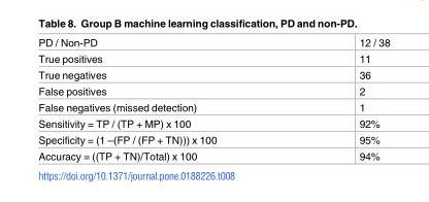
<table><tbody><tr><td>PD / Non-PD</td><td>12 / 38</td></tr><tr><td>True positives</td><td>11</td></tr><tr><td>True negatives</td><td>36</td></tr><tr><td>False positives</td><td>2</td></tr><tr><td>False negatives (missed detection)</td><td>1</td></tr><tr><td>Sensitivity = TP / (TP + MP) x 100</td><td>92%</td></tr><tr><td>Specificity = (1 –(FP / (FP + TN))) x 100</td><td>95%</td></tr><tr><td>Accuracy = ((TP + TN)/Total) x 100</td><td>94%</td></tr></tbody></table>